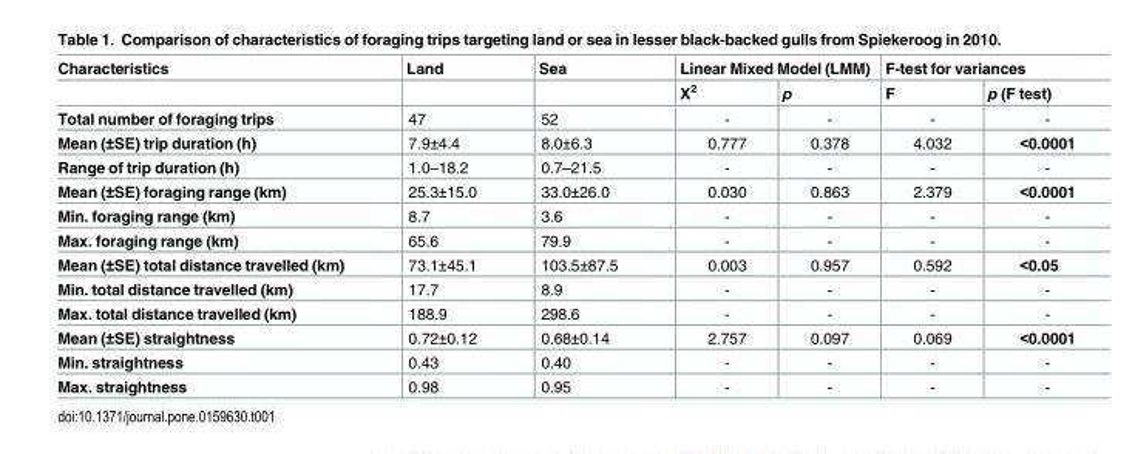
<table><thead><tr><td rowspan="2">Characteristics</td><td rowspan="2">Land</td><td rowspan="2">Sea</td><td colspan="2">Linear Mixed Model (LMM)</td><td colspan="2">F-test for variances</td></tr><tr><td>Χ<sup>2</sup></td><td>p</td><td>F</td><td>p (F test)</td></tr></thead><tbody><tr><td>Total number of foraging trips</td><td>47</td><td>52</td><td>-</td><td>-</td><td>-</td><td>-</td></tr><tr><td>Mean (±SE) trip duration (h)</td><td>7.9±4.4</td><td>8.0±6.3</td><td>0.777</td><td>0.378</td><td>4.032</td><td>&lt;0.0001</td></tr><tr><td>Range of trip duration (h)</td><td>1.0–18.2</td><td>0.7–21.5</td><td>-</td><td>-</td><td>-</td><td>-</td></tr><tr><td>Mean (±SE) foraging range (km)</td><td>25.3±15.0</td><td>33.0±26.0</td><td>0.030</td><td>0.863</td><td>2.379</td><td>&lt;0.0001</td></tr><tr><td>Min. foraging range (km)</td><td>8.7</td><td>3.6</td><td>-</td><td>-</td><td>-</td><td>-</td></tr><tr><td>Max. foraging range (km)</td><td>65.6</td><td>79.9</td><td>-</td><td>-</td><td>-</td><td>-</td></tr><tr><td>Mean (±SE) total distance travelled (km)</td><td>73.1±45.1</td><td>103.5±87.5</td><td>0.003</td><td>0.957</td><td>0.592</td><td>&lt;0.05</td></tr><tr><td>Min. total distance travelled (km)</td><td>17.7</td><td>8.9</td><td>-</td><td>-</td><td>-</td><td>-</td></tr><tr><td>Max. total distance travelled (km)</td><td>188.9</td><td>298.6</td><td>-</td><td>-</td><td>-</td><td>-</td></tr><tr><td>Mean (±SE) straightness</td><td>0.72±0.12</td><td>0.68±0.14</td><td>2.757</td><td>0.097</td><td>0.069</td><td>&lt;0.0001</td></tr><tr><td>Min. straightness</td><td>0.43</td><td>0.40</td><td>-</td><td>-</td><td>-</td><td>-</td></tr><tr><td>Max. straightness</td><td>0.98</td><td>0.95</td><td>-</td><td>-</td><td>-</td><td>-</td></tr></tbody></table>